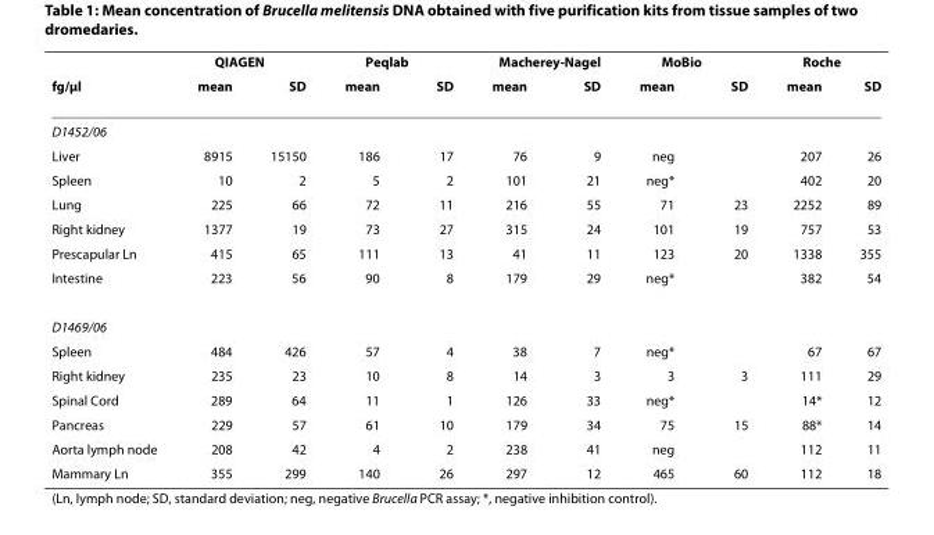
<table><thead><tr><td rowspan="2">fg/μl</td><td colspan="2">QIAGEN</td><td colspan="2">Peqlab</td><td colspan="2">Macherey-Nagel</td><td colspan="2">MoBio</td><td colspan="2">Roche</td></tr><tr><td>mean</td><td>SD</td><td>mean</td><td>SD</td><td>mean</td><td>SD</td><td>mean</td><td>SD</td><td>mean</td><td>SD</td></tr></thead><tbody><tr><td colspan="11">D1452/06</td></tr><tr><td>Liver</td><td>8915</td><td>15150</td><td>186</td><td>17</td><td>76</td><td>9</td><td>neg</td><td></td><td>207</td><td>26</td></tr><tr><td>Spleen</td><td>10</td><td>2</td><td>5</td><td>2</td><td>101</td><td>21</td><td>neg*</td><td></td><td>402</td><td>20</td></tr><tr><td>Lung</td><td>225</td><td>66</td><td>72</td><td>11</td><td>216</td><td>55</td><td>71</td><td>23</td><td>2252</td><td>89</td></tr><tr><td>Right kidney</td><td>1377</td><td>19</td><td>73</td><td>27</td><td>315</td><td>24</td><td>101</td><td>19</td><td>757</td><td>53</td></tr><tr><td>Prescapular Ln</td><td>415</td><td>65</td><td>111</td><td>13</td><td>41</td><td>11</td><td>123</td><td>20</td><td>1338</td><td>355</td></tr><tr><td>Intestine</td><td>223</td><td>56</td><td>90</td><td>8</td><td>179</td><td>29</td><td>neg*</td><td></td><td>382</td><td>54</td></tr><tr><td colspan="11">D1469/06</td></tr><tr><td>Spleen</td><td>484</td><td>426</td><td>57</td><td>4</td><td>38</td><td>7</td><td>neg*</td><td></td><td>67</td><td>67</td></tr><tr><td>Right kidney</td><td>235</td><td>23</td><td>10</td><td>8</td><td>14</td><td>3</td><td>3</td><td>3</td><td>111</td><td>29</td></tr><tr><td>Spinal Cord</td><td>289</td><td>64</td><td>11</td><td>1</td><td>126</td><td>33</td><td>neg*</td><td></td><td>14*</td><td>12</td></tr><tr><td>Pancreas</td><td>229</td><td>57</td><td>61</td><td>10</td><td>179</td><td>34</td><td>75</td><td>15</td><td>88*</td><td>14</td></tr><tr><td>Aorta lymph node</td><td>208</td><td>42</td><td>4</td><td>2</td><td>238</td><td>41</td><td>neg</td><td></td><td>112</td><td>11</td></tr><tr><td>Mammary Ln</td><td>355</td><td>299</td><td>140</td><td>26</td><td>297</td><td>12</td><td>465</td><td>60</td><td>112</td><td>18</td></tr></tbody></table>